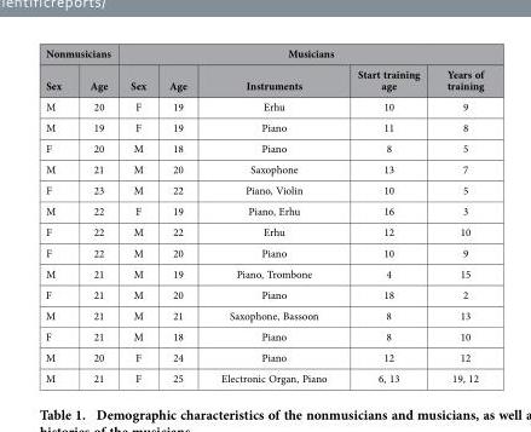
<table><thead><tr><td colspan="2">Nonmusicians</td><td colspan="5">Musicians</td></tr><tr><td>Sex</td><td>Age</td><td>Sex</td><td>Age</td><td>Instruments</td><td>Start training age</td><td>Years of training</td></tr></thead><tbody><tr><td>M</td><td>20</td><td>F</td><td>19</td><td>Erhu</td><td>10</td><td>9</td></tr><tr><td>M</td><td>19</td><td>F</td><td>19</td><td>Piano</td><td>11</td><td>8</td></tr><tr><td>F</td><td>20</td><td>M</td><td>18</td><td>Piano</td><td>8</td><td>5</td></tr><tr><td>M</td><td>21</td><td>M</td><td>20</td><td>Saxophone</td><td>13</td><td>7</td></tr><tr><td>F</td><td>23</td><td>M</td><td>22</td><td>Piano, Violin</td><td>10</td><td>5</td></tr><tr><td>M</td><td>22</td><td>F</td><td>19</td><td>Piano, Erhu</td><td>16</td><td>3</td></tr><tr><td>F</td><td>22</td><td>M</td><td>22</td><td>Erhu</td><td>12</td><td>10</td></tr><tr><td>F</td><td>22</td><td>M</td><td>20</td><td>Piano</td><td>10</td><td>9</td></tr><tr><td>M</td><td>21</td><td>M</td><td>19</td><td>Piano, Trombone</td><td>4</td><td>15</td></tr><tr><td>F</td><td>21</td><td>M</td><td>20</td><td>Piano</td><td>18</td><td>2</td></tr><tr><td>M</td><td>21</td><td>M</td><td>21</td><td>Saxophone, Bassoon</td><td>8</td><td>13</td></tr><tr><td>F</td><td>21</td><td>M</td><td>18</td><td>Piano</td><td>8</td><td>10</td></tr><tr><td>M</td><td>20</td><td>F</td><td>24</td><td>Piano</td><td>12</td><td>12</td></tr><tr><td>M</td><td>21</td><td>F</td><td>25</td><td>Electronic Organ, Piano</td><td>6, 13</td><td>19, 12</td></tr></tbody></table>